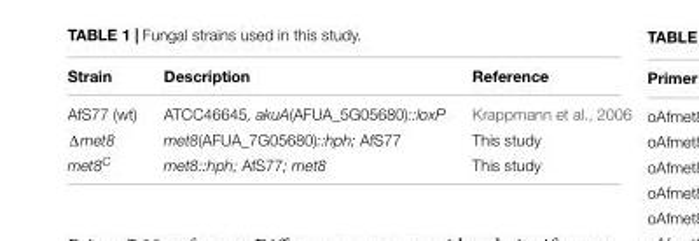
<table><thead><tr><td>Strain</td><td>Description</td><td>Reference</td></tr></thead><tbody><tr><td>AfS77 (wt)</td><td>ATCC46645, akuA(AFUA_5G05680)::loxP</td><td>Krappmann et al., 2006</td></tr><tr><td>Δmet8</td><td>met8(AFUA_7G05680)::hph; AfS77</td><td>This study</td></tr><tr><td>met8<sup>C</sup></td><td>met8::hph; AfS77; met8</td><td>This study</td></tr></tbody></table>